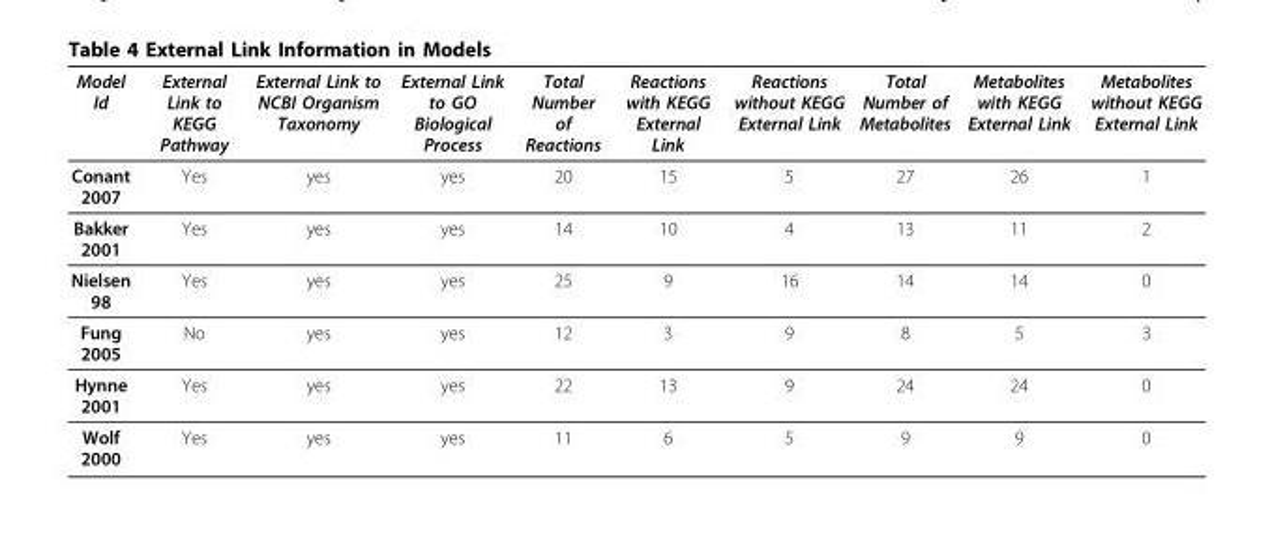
<table><thead><tr><td>Model Id</td><td>External Link to KEGG Pathway</td><td>External Link to NCBI Organism Taxonomy</td><td>External Link to GO Biological Process</td><td>Total Number of Reactions</td><td>Reactions with KEGG External Link</td><td>Reactions without KEGG External Link</td><td>Total Number of Metabolites</td><td>Metabolites with KEGG External Link</td><td>Metabolites without KEGG External Link</td></tr></thead><tbody><tr><td>Conant 2007</td><td>Yes</td><td>yes</td><td>yes</td><td>20</td><td>15</td><td>5</td><td>27</td><td>26</td><td>1</td></tr><tr><td>Bakker 2001</td><td>Yes</td><td>yes</td><td>yes</td><td>14</td><td>10</td><td>4</td><td>13</td><td>11</td><td>2</td></tr><tr><td>Nielsen 98</td><td>Yes</td><td>yes</td><td>yes</td><td>25</td><td>9</td><td>16</td><td>14</td><td>14</td><td>0</td></tr><tr><td>Fung 2005</td><td>No</td><td>yes</td><td>yes</td><td>12</td><td>3</td><td>9</td><td>8</td><td>5</td><td>3</td></tr><tr><td>Hynne 2001</td><td>Yes</td><td>yes</td><td>yes</td><td>22</td><td>13</td><td>9</td><td>24</td><td>24</td><td>0</td></tr><tr><td>Wolf 2000</td><td>Yes</td><td>yes</td><td>yes</td><td>11</td><td>6</td><td>5</td><td>9</td><td>9</td><td>0</td></tr></tbody></table>